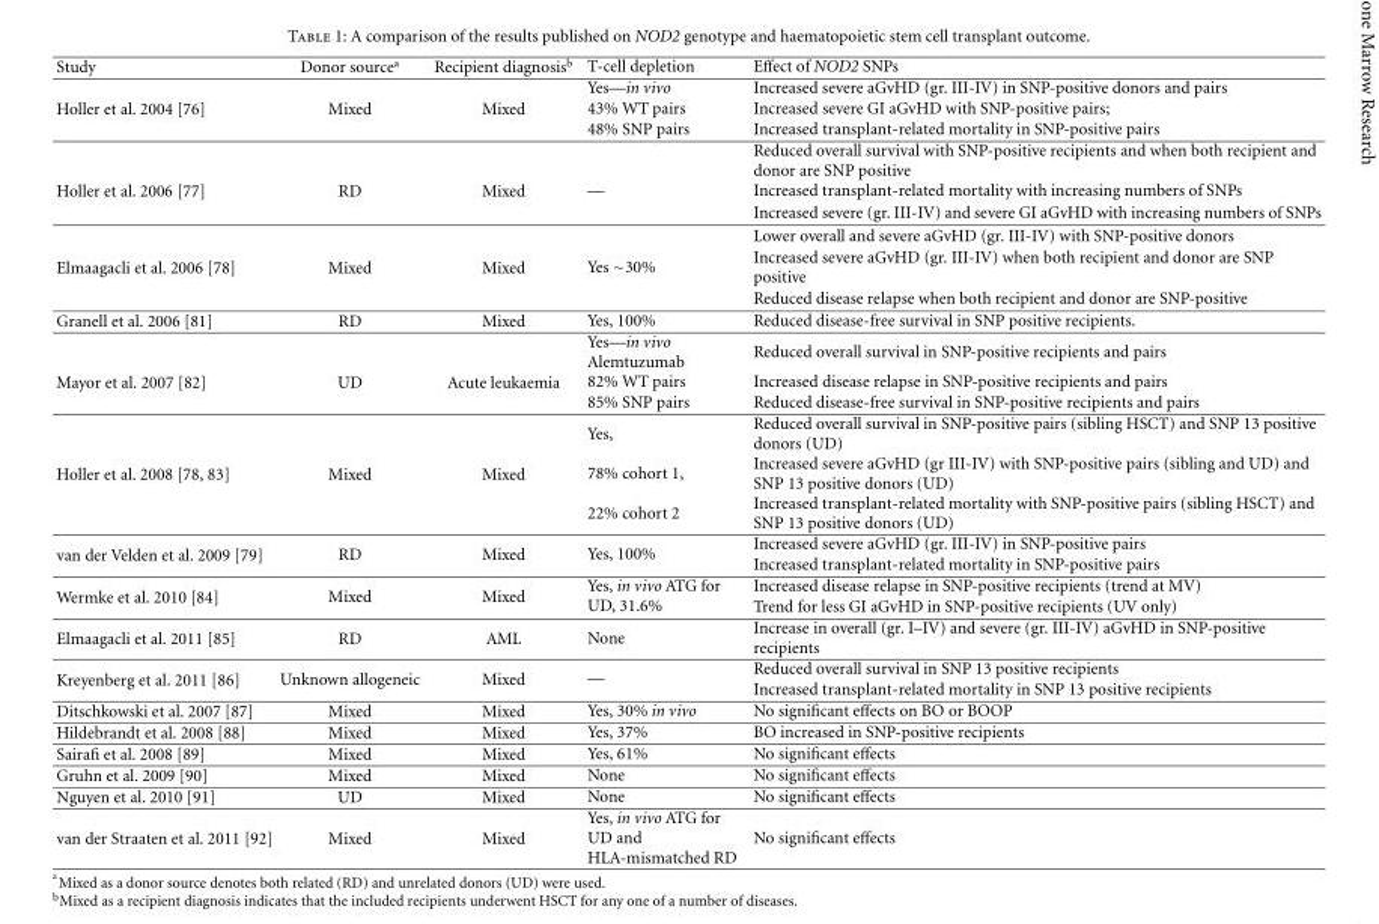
<table><thead><tr><td>Study</td><td>Donor source<sup>a</sup></td><td>Recipient diagnosis<sup>b</sup></td><td>T-cell depletion</td><td>Effect of NOD2 SNPs</td></tr></thead><tbody><tr><td></td><td></td><td></td><td>Yes—in vivo</td><td>Increased severe aGvHD (gr. III-IV) in SNP-positive donors and pairs</td></tr><tr><td rowspan="3">Holler et al. 2004 [76]</td><td>Mixed</td><td>Mixed</td><td>43% WT pairs</td><td>Increased severe GI aGvHD with SNP-positive pairs;</td></tr><tr><td></td><td></td><td>48% SNP pairs</td><td>Increased transplant-related mortality in SNP-positive pairs</td></tr><tr><td></td><td></td><td></td><td>Reduced overall survival with SNP-positive recipients and when both recipient and donor are SNP positive</td></tr><tr><td rowspan="3">Holler et al. 2006 [77]</td><td>RD</td><td>Mixed</td><td>—</td><td>Increased transplant-related mortality with increasing numbers of SNPs</td></tr><tr><td></td><td></td><td></td><td>Increased severe (gr. III-IV) and severe GI aGvHD with increasing numbers of SNPs</td></tr><tr><td></td><td></td><td></td><td>Lower overall and severe aGvHD (gr. III-IV) with SNP-positive donors</td></tr><tr><td rowspan="2">Elmaagacli et al. 2006 [78]</td><td>Mixed</td><td>Mixed</td><td>Yes ∼30%</td><td>Increased severe aGvHD (gr. III-IV) when both recipient and donor are SNP positive</td></tr><tr><td></td><td></td><td></td><td>Reduced disease relapse when both recipient and donor are SNP-positive</td></tr><tr><td rowspan="2">Granell et al. 2006 [81]</td><td>RD</td><td>Mixed</td><td>Yes, 100%</td><td>Reduced disease-free survival in SNP positive recipients.</td></tr><tr><td></td><td></td><td>Yes—in vivo Alemtuzumab</td><td>Reduced overall survival in SNP-positive recipients and pairs</td></tr><tr><td rowspan="3">Mayor et al. 2007 [82]</td><td>UD</td><td>Acute leukaemia</td><td>82% WT pairs</td><td>Increased disease relapse in SNP-positive recipients and pairs</td></tr><tr><td></td><td></td><td>85% SNP pairs</td><td>Reduced disease-free survival in SNP-positive recipients and pairs</td></tr><tr><td></td><td></td><td>Yes,</td><td>Reduced overall survival in SNP-positive pairs (sibling HSCT) and SNP 13 positive donors (UD)</td></tr><tr><td rowspan="2">Holler et al. 2008 [78, 83]</td><td>Mixed</td><td>Mixed</td><td>78% cohort 1,</td><td>Increased severe aGvHD (gr III-IV) with SNP-positive pairs (sibling and UD) and SNP 13 positive donors (UD)</td></tr><tr><td></td><td></td><td>22% cohort 2</td><td>Increased transplant-related mortality with SNP-positive pairs (sibling HSCT) and SNP 13 positive donors (UD)</td></tr><tr><td rowspan="2">van der Velden et al. 2009 [79]</td><td rowspan="2">RD</td><td rowspan="2">Mixed</td><td rowspan="2">Yes, 100%</td><td>Increased severe aGvHD (gr. III-IV) in SNP-positive pairs</td></tr><tr><td>Increased transplant-related mortality in SNP-positive pairs</td></tr><tr><td rowspan="2">Wermke et al. 2010 [84]</td><td rowspan="2">Mixed</td><td rowspan="2">Mixed</td><td rowspan="2">Yes, in vivo ATG for UD, 31.6%</td><td>Increased disease relapse in SNP-positive recipients (trend at MV)</td></tr><tr><td>Trend for less GI aGvHD in SNP-positive recipients (UV only)</td></tr><tr><td>Elmaagacli et al. 2011 [85]</td><td>RD</td><td>AML</td><td>None</td><td>Increase in overall (gr. I–IV) and severe (gr. III-IV) aGvHD in SNP-positive recipients</td></tr><tr><td rowspan="2">Kreyenberg et al. 2011 [86]</td><td rowspan="2">Unknown allogeneic</td><td rowspan="2">Mixed</td><td rowspan="2">—</td><td>Reduced overall survival in SNP 13 positive recipients</td></tr><tr><td>Increased transplant-related mortality in SNP 13 positive recipients</td></tr><tr><td>Ditschkowski et al. 2007 [87]</td><td>Mixed</td><td>Mixed</td><td>Yes, 30% in vivo</td><td>No significant effects on BO or BOOP</td></tr><tr><td>Hildebrandt et al. 2008 [88]</td><td>Mixed</td><td>Mixed</td><td>Yes, 37%</td><td>BO increased in SNP-positive recipients</td></tr><tr><td>Sairafi et al. 2008 [89]</td><td>Mixed</td><td>Mixed</td><td>Yes, 61%</td><td>No significant effects</td></tr><tr><td>Gruhn et al. 2009 [90]</td><td>Mixed</td><td>Mixed</td><td>None</td><td>No significant effects</td></tr><tr><td>Nguyen et al. 2010 [91]</td><td>UD</td><td>Mixed</td><td>None</td><td>No significant effects</td></tr><tr><td>van der Straaten et al. 2011 [92]</td><td>Mixed</td><td>Mixed</td><td>Yes, in vivo ATG for UD and HLA-mismatched RD</td><td>No significant effects</td></tr></tbody></table>